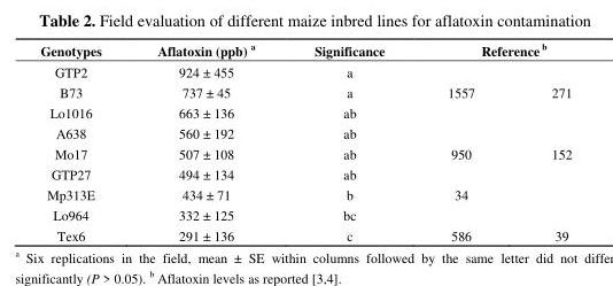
<table><thead><tr><td rowspan="2">Genotypes GTP2</td><td rowspan="2">Aflatoxin (ppb) <sup>a</sup> 924 ± 455</td><td rowspan="2">Significance a</td><td colspan="2">Reference <sup>b</sup></td></tr><tr><td></td><td></td></tr></thead><tbody><tr><td>B73</td><td>737 ± 45</td><td>a</td><td>1557</td><td>271</td></tr><tr><td>Lo1016</td><td>663 ± 136</td><td>ab</td><td></td><td></td></tr><tr><td>A638</td><td>560 ± 192</td><td>ab</td><td></td><td></td></tr><tr><td>Mo17</td><td>507 ± 108</td><td>ab</td><td>950</td><td>152</td></tr><tr><td>GTP27</td><td>494 ± 134</td><td>ab</td><td></td><td></td></tr><tr><td>Mp313E</td><td>434 ± 71</td><td>b</td><td>34</td><td></td></tr><tr><td>Lo964</td><td>332 ± 125</td><td>bc</td><td></td><td></td></tr><tr><td>Tex6</td><td>291 ± 136</td><td>c</td><td>586</td><td>39</td></tr></tbody></table>